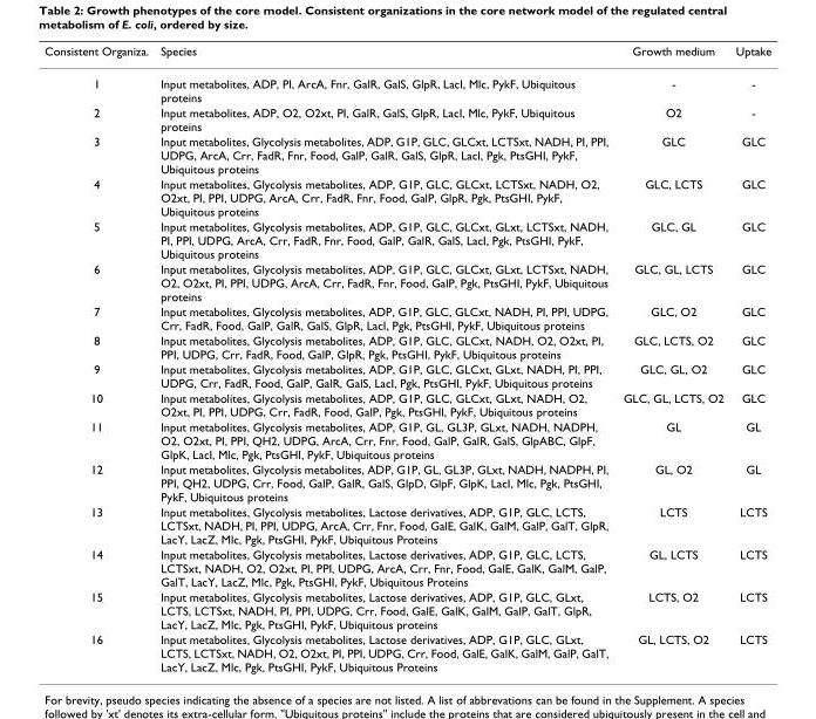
<table><thead><tr><td>Consistent Organiza.</td><td>Species</td><td>Growth medium</td><td>Uptake</td></tr></thead><tbody><tr><td>1</td><td>Input metabolites, ADP, PI, ArcA, Fnr, GalR, GalS, GlpR, LacI, Mlc, PykF, Ubiquitous proteins</td><td>-</td><td>-</td></tr><tr><td>2</td><td>Input metabolites, ADP, O2, O2xt, PI, GalR, GalS, GlpR, LacI, Mlc, PykF, Ubiquitous proteins</td><td>O2</td><td>-</td></tr><tr><td>3</td><td>Input metabolites, Glycolysis metabolites, ADP, G1P, GLC, GLCxt, LCTSxt, NADH, PI, PPI, UDPG, ArcA, Crr, FadR, Fnr, Food, GalP, GalR, GalS, GlpR, LacI, Pgk, PtsGHI, PykF, Ubiquitous proteins</td><td>GLC</td><td>GLC</td></tr><tr><td>4</td><td>Input metabolites, Glycolysis metabolites, ADP, G1P, GLC, GLCxt, LCTSxt, NADH, O2, O2xt, PI, PPI, UDPG, ArcA, Crr, FadR, Fnr, Food, GalP, GlpR, Pgk, PtsGHI, PykF, Ubiquitous proteins</td><td>GLC, LCTS</td><td>GLC</td></tr><tr><td>5</td><td>Input metabolites, Glycolysis metabolites, ADP, G1P, GLC, GLCxt, GLxt, LCTSxt, NADH, PI, PPI, UDPG, ArcA, Crr, FadR, Fnr, Food, GalP, GalR, GalS, LacI, Pgk, PtsGHI, PykF, Ubiquitous proteins</td><td>GLC, GL</td><td>GLC</td></tr><tr><td>6</td><td>Input metabolites, Glycolysis metabolites, ADP, G1P, GLC, GLCxt, GLxt, LCTSxt, NADH, O2, O2xt, PI, PPI, UDPG, ArcA, Crr, FadR, Fnr, Food, GalP, Pgk, PtsGHI, PykF, Ubiquitous proteins</td><td>GLC, GL, LCTS</td><td>GLC</td></tr><tr><td>7</td><td>Input metabolites, Glycolysis metabolites, ADP, G1P, GLC, GLCxt, NADH, PI, PPI, UDPG, Crr, FadR, Food, GalP, GalR, GalS, GlpR, LacI, Pgk, PtsGHI, PykF, Ubiquitous proteins</td><td>GLC, O2</td><td>GLC</td></tr><tr><td>8</td><td>Input metabolites, Glycolysis metabolites, ADP, G1P, GLC, GLCxt, NADH, O2, O2xt, PI, PPI, UDPG, Crr, FadR, Food, GalP, GlpR, Pgk, PtsGHI, PykF, Ubiquitous proteins</td><td>GLC, LCTS, O2</td><td>GLC</td></tr><tr><td>9</td><td>Input metabolites, Glycolysis metabolites, ADP, G1P, GLC, GLCxt, GLxt, NADH, PI, PPI, UDPG, Crr, FadR, Food, GalP, GalR, GalS, LacI, Pgk, PtsGHI, PykF, Ubiquitous proteins</td><td>GLC, GL, O2</td><td>GLC</td></tr><tr><td>10</td><td>Input metabolites, Glycolysis metabolites, ADP, G1P, GLC, GLCxt, GLxt, NADH, O2, O2xt, PI, PPI, UDPG, Crr, FadR, Food, GalP, Pgk, PtsGHI, PykF, Ubiquitous proteins</td><td>GLC, GL, LCTS, O2</td><td>GLC</td></tr><tr><td>11</td><td>Input metabolites, Glycolysis metabolites, ADP, G1P, GL, GL3P, GLxt, NADH, NADPH, O2, O2xt, PI, PPI, QH2, UDPG, ArcA, Crr, Fnr, Food, GalP, GalR, GalS, GlpABC, GlpF, GlpK, LacI, Mlc, Pgk, PtsGHI, PykF, Ubiquitous proteins</td><td>GL</td><td>GL</td></tr><tr><td>12</td><td>Input metabolites, Glycolysis metabolites, ADP, G1P, GL, GL3P, GLxt, NADH, NADPH, PI, PPI, QH2, UDPG, Crr, Food, GalP, GalR, GalS, GlpD, GlpF, GlpK, LacI, Mlc, Pgk, PtsGHI, PykF, Ubiquitous proteins</td><td>GL, O2</td><td>GL</td></tr><tr><td>13</td><td>Input metabolites, Glycolysis metabolites, Lactose derivatives, ADP, G1P, GLC, LCTS, LCTSxt, NADH, PI, PPI, UDPG, ArcA, Crr, Fnr, Food, GalE, GalK, GalM, GalP, GalT, GlpR, LacY, LacZ, Mlc, Pgk, PtsGHI, PykF, Ubiquitous Proteins</td><td>LCTS</td><td>LCTS</td></tr><tr><td>14</td><td>Input metabolites, Glycolysis metabolites, Lactose derivatives, ADP, G1P, GLC, LCTS, LCTSxt, NADH, O2, O2xt, PI, PPI, UDPG, ArcA, Crr, Fnr, Food, GalE, GalK, GalM, GalP, GalT, LacY, LacZ, Mlc, Pgk, PtsGHI, PykF, Ubiquitous Proteins</td><td>GL, LCTS</td><td>LCTS</td></tr><tr><td>15</td><td>Input metabolites, Glycolysis metabolites, Lactose derivatives, ADP, G1P, GLC, GLxt, LCTS, LCTSxt, NADH, PI, PPI, UDPG, Crr, Food, GalE, GalK, GalM, GalP, GalT, GlpR, LacY, LacZ, Mlc, Pgk, PtsGHI, PykF, Ubiquitous proteins</td><td>LCTS, O2</td><td>LCTS</td></tr><tr><td>16</td><td>Input metabolites, Glycolysis metabolites, Lactose derivatives, ADP, G1P, GLC, GLxt, LCTS, LCTSxt, NADH, O2, O2xt, PI, PPI, UDPG, Crr, Food, GalE, GalK, GalM, GalP, GalT, LacY, LacZ, Mlc, Pgk, PtsGHI, PykF, Ubiquitous Proteins</td><td>GL, LCTS, O2</td><td>LCTS</td></tr></tbody></table>